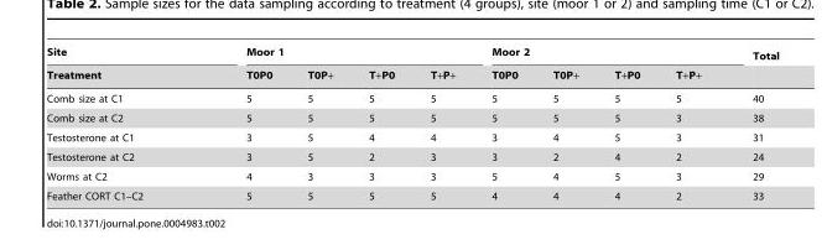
<table><thead><tr><td rowspan="2">Site Treatment</td><td colspan="4">Moor 1</td><td colspan="4">Moor 2</td><td rowspan="2">Total</td></tr><tr><td>T0P0</td><td>T0P+</td><td>T+P0</td><td>T+P+</td><td>T0P0</td><td>T0P+</td><td>T+P0</td><td>T+P+</td></tr></thead><tbody><tr><td>Comb size at C1</td><td>5</td><td>5</td><td>5</td><td>5</td><td>5</td><td>5</td><td>5</td><td>5</td><td>40</td></tr><tr><td>Comb size at C2</td><td>5</td><td>5</td><td>5</td><td>5</td><td>5</td><td>5</td><td>5</td><td>3</td><td>38</td></tr><tr><td>Testosterone at C1</td><td>3</td><td>5</td><td>4</td><td>4</td><td>3</td><td>4</td><td>5</td><td>3</td><td>31</td></tr><tr><td>Testosterone at C2</td><td>3</td><td>5</td><td>2</td><td>3</td><td>3</td><td>2</td><td>4</td><td>2</td><td>24</td></tr><tr><td>Worms at C2</td><td>4</td><td>3</td><td>3</td><td>3</td><td>5</td><td>4</td><td>5</td><td>3</td><td>29</td></tr><tr><td>Feather CORT C1–C2</td><td>5</td><td>5</td><td>5</td><td>5</td><td>4</td><td>4</td><td>4</td><td>2</td><td>33</td></tr></tbody></table>